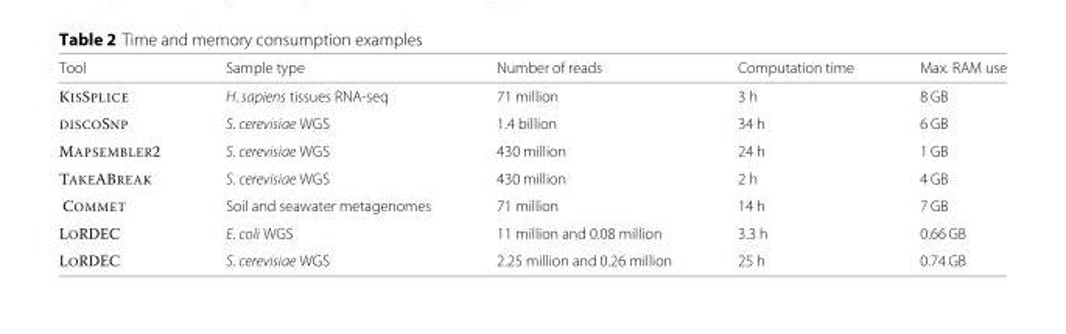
<table><thead><tr><td>Tool</td><td>Sample type</td><td>Number of reads</td><td>Computation time</td><td>Max. RAM use</td></tr></thead><tbody><tr><td>KISSPLICE</td><td>H. sapiens tissues RNA-seq</td><td>71 million</td><td>3 h</td><td>8 GB</td></tr><tr><td>DISCOSNP</td><td>S. cerevisiae WGS</td><td>1.4 billion</td><td>34 h</td><td>6 GB</td></tr><tr><td>MAPSEMBLER2</td><td>S. cerevisiae WGS</td><td>430 million</td><td>24 h</td><td>1 GB</td></tr><tr><td>TAKEABREAK</td><td>S. cerevisiae WGS</td><td>430 million</td><td>2 h</td><td>4 GB</td></tr><tr><td>COMMET</td><td>Soil and seawater metagenomes</td><td>71 million</td><td>14 h</td><td>7 GB</td></tr><tr><td>LORDEC</td><td>E. coli WGS</td><td>11 million and 0.08 million</td><td>3.3 h</td><td>0.66 GB</td></tr><tr><td>LORDEC</td><td>S. cerevisiae WGS</td><td>2.25 million and 0.26 million</td><td>25 h</td><td>0.74 GB</td></tr></tbody></table>